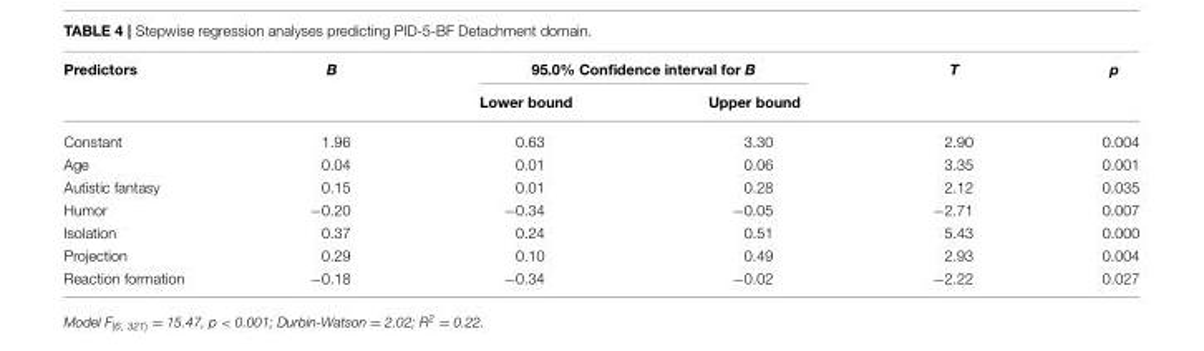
<table><thead><tr><td rowspan="2">Predictors</td><td rowspan="2">B</td><td colspan="2">95.0% Confidence interval for B</td><td rowspan="2">T</td><td rowspan="2">p</td></tr><tr><td>Lower bound</td><td>Upper bound</td></tr></thead><tbody><tr><td>Constant</td><td>1.96</td><td>0.63</td><td>3.30</td><td>2.90</td><td>0.004</td></tr><tr><td>Age</td><td>0.04</td><td>0.01</td><td>0.06</td><td>3.35</td><td>0.001</td></tr><tr><td>Autistic fantasy</td><td>0.15</td><td>0.01</td><td>0.28</td><td>2.12</td><td>0.035</td></tr><tr><td>Humor</td><td>−0.20</td><td>−0.34</td><td>−0.05</td><td>−2.71</td><td>0.007</td></tr><tr><td>Isolation</td><td>0.37</td><td>0.24</td><td>0.51</td><td>5.43</td><td>0.000</td></tr><tr><td>Projection</td><td>0.29</td><td>0.10</td><td>0.49</td><td>2.93</td><td>0.004</td></tr><tr><td>Reaction formation</td><td>−0.18</td><td>−0.34</td><td>−0.02</td><td>−2.22</td><td>0.027</td></tr></tbody></table>